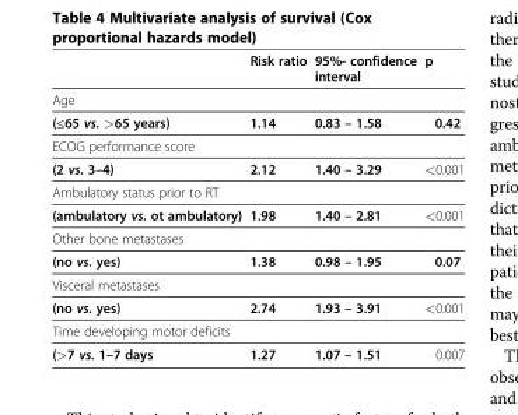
<table><thead><tr><td></td><td>Risk ratio</td><td>95%- confidence interval</td><td>p</td></tr></thead><tbody><tr><td colspan="4">Age</td></tr><tr><td>(≤65 vs. &gt;65 years)</td><td>1.14</td><td>0.83 – 1.58</td><td>0.42</td></tr><tr><td colspan="4">ECOG performance score</td></tr><tr><td>(2 vs. 3–4)</td><td>2.12</td><td>1.40 – 3.29</td><td>&lt;0.001</td></tr><tr><td colspan="4">Ambulatory status prior to RT</td></tr><tr><td>(ambulatory vs. ot ambulatory)</td><td>1.98</td><td>1.40 – 2.81</td><td>&lt;0.001</td></tr><tr><td colspan="4">Other bone metastases</td></tr><tr><td>(no vs. yes)</td><td>1.38</td><td>0.98 – 1.95</td><td>0.07</td></tr><tr><td colspan="4">Visceral metastases</td></tr><tr><td>(no vs. yes)</td><td>2.74</td><td>1.93 – 3.91</td><td>&lt;0.001</td></tr><tr><td colspan="4">Time developing motor deficits</td></tr><tr><td>(&gt;7 vs. 1–7 days</td><td>1.27</td><td>1.07 – 1.51</td><td>0.007</td></tr></tbody></table>